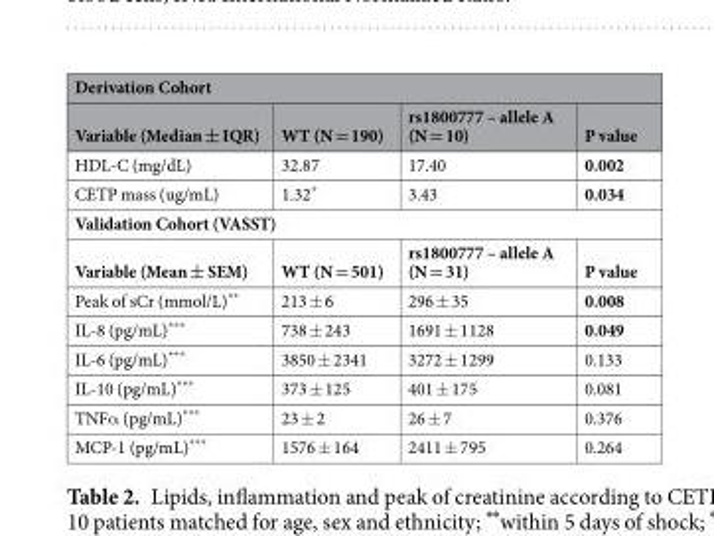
<table><thead><tr><td colspan="4">Derivation Cohort</td></tr><tr><td>Variable (Median ± IQR)</td><td>WT (N = 190)</td><td>rs1800777 – allele A (N = 10)</td><td>P value</td></tr></thead><tbody><tr><td>HDL-C (mg/dL)</td><td>32.87</td><td>17.40</td><td>0.002</td></tr><tr><td>CETP mass (ug/mL)</td><td>1.32*</td><td>3.43</td><td>0.034</td></tr><tr><td colspan="4">Validation Cohort (VASST)</td></tr><tr><td>Variable (Mean ± SEM)</td><td>WT (N = 501)</td><td>rs1800777 – allele A (N = 31)</td><td>P value</td></tr><tr><td>Peak of sCr (mmol/L)**</td><td>213 ± 6</td><td>296 ± 35</td><td>0.008</td></tr><tr><td>IL-8 (pg/mL)***</td><td>738 ± 243</td><td>1691 ± 1128</td><td>0.049</td></tr><tr><td>IL-6 (pg/mL)***</td><td>3850 ± 2341</td><td>3272 ± 1299</td><td>0.133</td></tr><tr><td>IL-10 (pg/mL)***</td><td>373 ± 125</td><td>401 ± 175</td><td>0.081</td></tr><tr><td>TNFα (pg/mL)***</td><td>23 ± 2</td><td>26 ± 7</td><td>0.376</td></tr><tr><td>MCP-1 (pg/mL)***</td><td>1576 ± 164</td><td>2411 ± 795</td><td>0.264</td></tr></tbody></table>